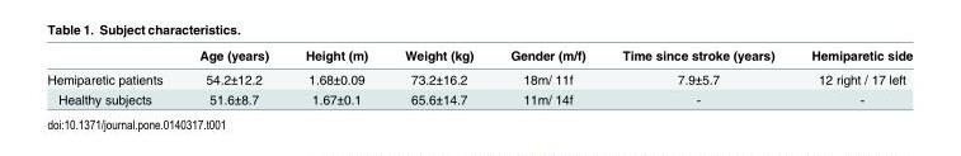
<table><thead><tr><td></td><td>Age (years)</td><td>Height (m)</td><td>Weight (kg)</td><td>Gender (m/f)</td><td>Time since stroke (years)</td><td>Hemiparetic side</td></tr></thead><tbody><tr><td>Hemiparetic patients</td><td>54.2±12.2</td><td>1.68±0.09</td><td>73.2±16.2</td><td>18m/ 11f</td><td>7.9±5.7</td><td>12 right / 17 left</td></tr><tr><td>Healthy subjects</td><td>51.6±8.7</td><td>1.67±0.1</td><td>65.6±14.7</td><td>11m/ 14f</td><td>-</td><td>-</td></tr></tbody></table>